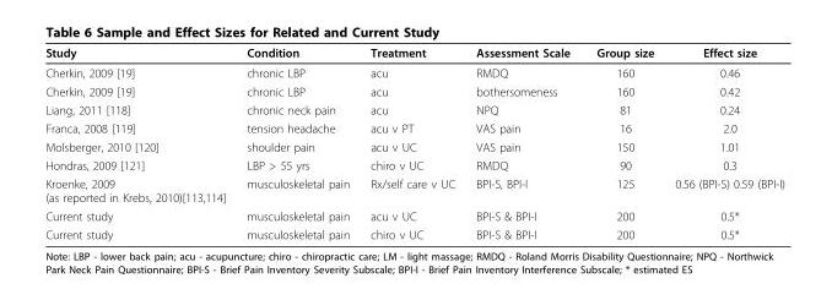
<table><thead><tr><td>Study</td><td>Condition</td><td>Treatment</td><td>Assessment Scale</td><td>Group size</td><td>Effect size</td></tr></thead><tbody><tr><td>Cherkin, 2009 [19]</td><td>chronic LBP</td><td>acu</td><td>RMDQ</td><td>160</td><td>0.46</td></tr><tr><td>Cherkin, 2009 [19]</td><td>chronic LBP</td><td>acu</td><td>bothersomeness</td><td>160</td><td>0.42</td></tr><tr><td>Liang, 2011 [118]</td><td>chronic neck pain</td><td>acu</td><td>NPQ</td><td>81</td><td>0.24</td></tr><tr><td>Franca, 2008 [119]</td><td>tension headache</td><td>acu v PT</td><td>VAS pain</td><td>16</td><td>2.0</td></tr><tr><td>Molsberger, 2010 [120]</td><td>shoulder pain</td><td>acu v UC</td><td>VAS pain</td><td>150</td><td>1.01</td></tr><tr><td>Hondras, 2009 [121]</td><td>LBP &gt; 55 yrs</td><td>chiro v UC</td><td>RMDQ</td><td>90</td><td>0.3</td></tr><tr><td>Kroenke, 2009 (as reported in Krebs, 2010)[113,114]</td><td>musculoskeletal pain</td><td>Rx/self care v UC</td><td>BPI-S, BPI-I</td><td>125</td><td>0.56 (BPI-S) 0.59 (BPI-I)</td></tr><tr><td>Current study</td><td>musculoskeletal pain</td><td>acu v UC</td><td>BPI-S &amp; BPI-I</td><td>200</td><td>0.5*</td></tr><tr><td>Current study</td><td>musculoskeletal pain</td><td>chiro v UC</td><td>BPI-S &amp; BPI-I</td><td>200</td><td>0.5*</td></tr></tbody></table>